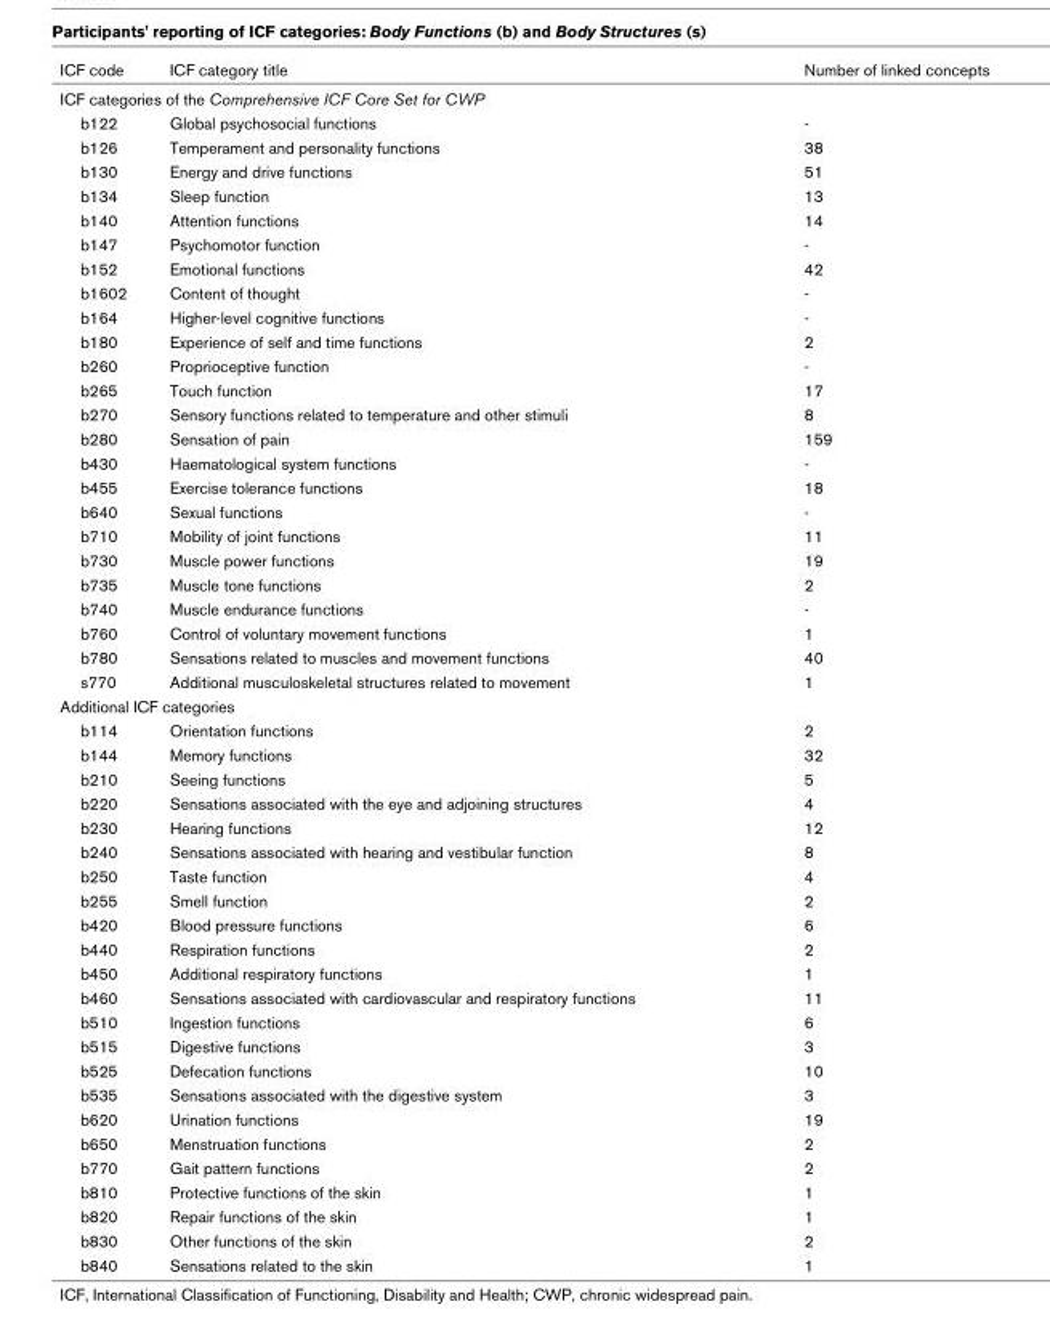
<table><thead><tr><td>ICF code</td><td>ICF category title</td><td>Number of linked concepts</td></tr></thead><tbody><tr><td colspan="3">ICF categories of the Comprehensive ICF Core Set for CWP</td></tr><tr><td>b122</td><td>Global psychosocial functions</td><td>-</td></tr><tr><td>b126</td><td>Temperament and personality functions</td><td>38</td></tr><tr><td>b130</td><td>Energy and drive functions</td><td>51</td></tr><tr><td>b134</td><td>Sleep function</td><td>13</td></tr><tr><td>b140</td><td>Attention functions</td><td>14</td></tr><tr><td>b147</td><td>Psychomotor function</td><td>-</td></tr><tr><td>b152</td><td>Emotional functions</td><td>42</td></tr><tr><td>b1602</td><td>Content of thought</td><td>-</td></tr><tr><td>b164</td><td>Higher-level cognitive functions</td><td>-</td></tr><tr><td>b180</td><td>Experience of self and time functions</td><td>2</td></tr><tr><td>b260</td><td>Proprioceptive function</td><td>-</td></tr><tr><td>b265</td><td>Touch function</td><td>17</td></tr><tr><td>b270</td><td>Sensory functions related to temperature and other stimuli</td><td>8</td></tr><tr><td>b280</td><td>Sensation of pain</td><td>159</td></tr><tr><td>b430</td><td>Haematological system functions</td><td>-</td></tr><tr><td>b455</td><td>Exercise tolerance functions</td><td>18</td></tr><tr><td>b640</td><td>Sexual functions</td><td>-</td></tr><tr><td>b710</td><td>Mobility of joint functions</td><td>11</td></tr><tr><td>b730</td><td>Muscle power functions</td><td>19</td></tr><tr><td>b735</td><td>Muscle tone functions</td><td>2</td></tr><tr><td>b740</td><td>Muscle endurance functions</td><td>-</td></tr><tr><td>b760</td><td>Control of voluntary movement functions</td><td>1</td></tr><tr><td>b780</td><td>Sensations related to muscles and movement functions</td><td>40</td></tr><tr><td>s770</td><td>Additional musculoskeletal structures related to movement</td><td>1</td></tr><tr><td colspan="3">Additional ICF categories</td></tr><tr><td>b114</td><td>Orientation functions</td><td>2</td></tr><tr><td>b144</td><td>Memory functions</td><td>32</td></tr><tr><td>b210</td><td>Seeing functions</td><td>5</td></tr><tr><td>b220</td><td>Sensations associated with the eye and adjoining structures</td><td>4</td></tr><tr><td>b230</td><td>Hearing functions</td><td>12</td></tr><tr><td>b240</td><td>Sensations associated with hearing and vestibular function</td><td>8</td></tr><tr><td>b250</td><td>Taste function</td><td>4</td></tr><tr><td>b255</td><td>Smell function</td><td>2</td></tr><tr><td>b420</td><td>Blood pressure functions</td><td>6</td></tr><tr><td>b440</td><td>Respiration functions</td><td>2</td></tr><tr><td>b450</td><td>Additional respiratory functions</td><td>1</td></tr><tr><td>b460</td><td>Sensations associated with cardiovascular and respiratory functions</td><td>11</td></tr><tr><td>b510</td><td>Ingestion functions</td><td>6</td></tr><tr><td>b515</td><td>Digestive functions</td><td>3</td></tr><tr><td>b525</td><td>Defecation functions</td><td>10</td></tr><tr><td>b535</td><td>Sensations associated with the digestive system</td><td>3</td></tr><tr><td>b620</td><td>Urination functions</td><td>19</td></tr><tr><td>b650</td><td>Menstruation functions</td><td>2</td></tr><tr><td>b770</td><td>Gait pattern functions</td><td>2</td></tr><tr><td>b810</td><td>Protective functions of the skin</td><td>1</td></tr><tr><td>b820</td><td>Repair functions of the skin</td><td>1</td></tr><tr><td>b830</td><td>Other functions of the skin</td><td>2</td></tr><tr><td>b840</td><td>Sensations related to the skin</td><td>1</td></tr></tbody></table>